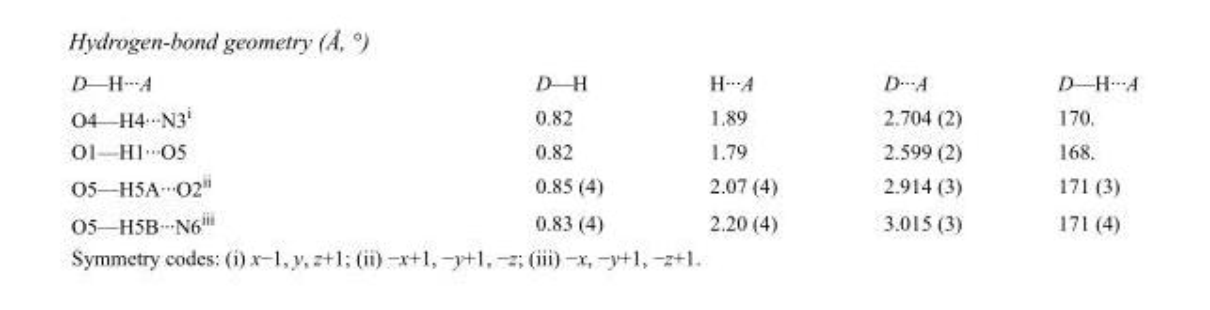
<table><tbody><tr><td>D—H···A</td><td>D—H</td><td>H···A</td><td>D···A</td><td>D—H···A</td></tr><tr><td>O4—H4···N3<sup>i</sup></td><td>0.82</td><td>1.89</td><td>2.704 (2)</td><td>170.</td></tr><tr><td>O1—H1···O5</td><td>0.82</td><td>1.79</td><td>2.599 (2)</td><td>168.</td></tr><tr><td>O5—H5A···O2<sup>ii</sup></td><td>0.85 (4)</td><td>2.07 (4)</td><td>2.914 (3)</td><td>171 (3)</td></tr><tr><td>O5—H5B···N6<sup>iii</sup></td><td>0.83 (4)</td><td>2.20 (4)</td><td>3.015 (3)</td><td>171 (4)</td></tr></tbody></table>